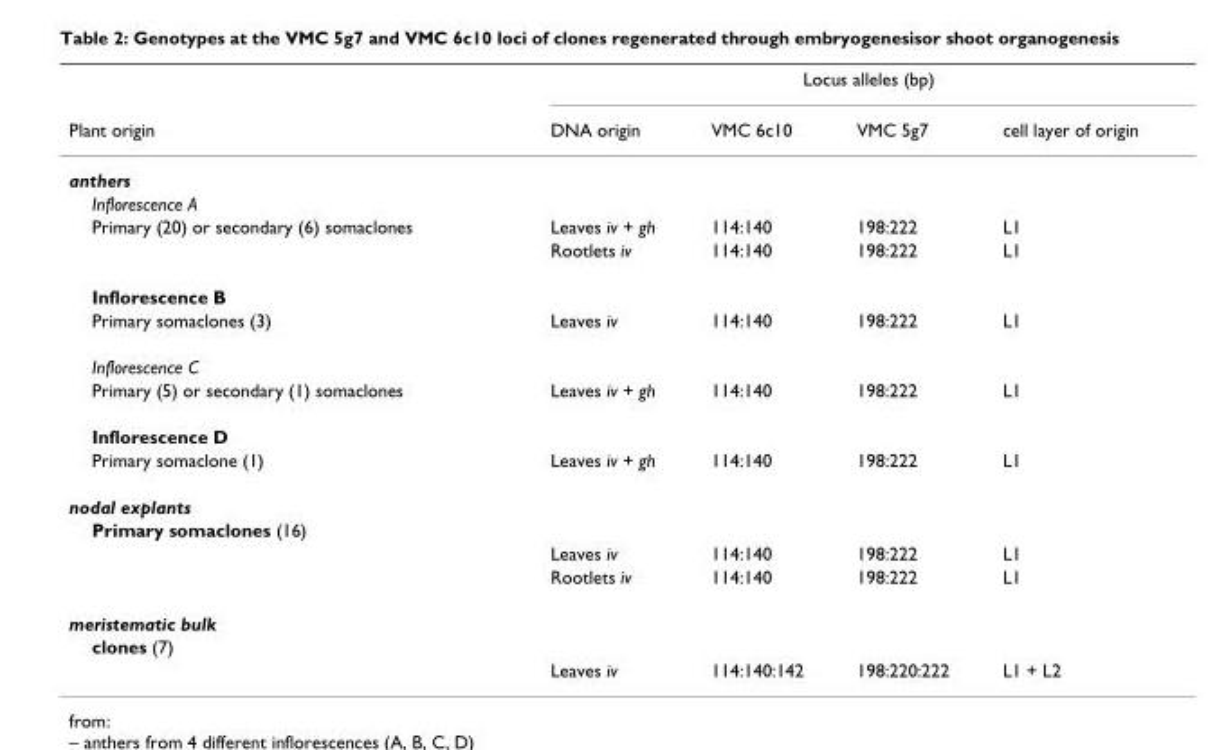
<table><thead><tr><td rowspan="2">Plant origin</td><td colspan="4">Locus alleles (bp)</td></tr><tr><td>DNA origin</td><td>VMC 6c10</td><td>VMC 5g7</td><td>cell layer of origin</td></tr></thead><tbody><tr><td colspan="5">anthers</td></tr><tr><td colspan="5">Inflorescence A</td></tr><tr><td rowspan="2">Primary (20) or secondary (6) somaclones</td><td>Leaves iv + gh</td><td>114:140</td><td>198:222</td><td>L1</td></tr><tr><td>Rootlets iv</td><td>114:140</td><td>198:222</td><td>L1</td></tr><tr><td colspan="5">Inflorescence B</td></tr><tr><td>Primary somaclones (3)</td><td>Leaves iv</td><td>114:140</td><td>198:222</td><td>L1</td></tr><tr><td colspan="5">Inflorescence C</td></tr><tr><td>Primary (5) or secondary (1) somaclones</td><td>Leaves iv + gh</td><td>114:140</td><td>198:222</td><td>L1</td></tr><tr><td colspan="5">Inflorescence D</td></tr><tr><td>Primary somaclone (1)</td><td>Leaves iv + gh</td><td>114:140</td><td>198:222</td><td>L1</td></tr><tr><td colspan="5">nodal explants</td></tr><tr><td colspan="5">Primary somaclones (16)</td></tr><tr><td></td><td>Leaves iv</td><td>114:140</td><td>198:222</td><td>L1</td></tr><tr><td></td><td>Rootlets iv</td><td>114:140</td><td>198:222</td><td>L1</td></tr><tr><td colspan="5">meristematic bulk</td></tr><tr><td colspan="5">clones (7)</td></tr><tr><td></td><td>Leaves iv</td><td>114:140:142</td><td>198:220:222</td><td>L1 + L2</td></tr></tbody></table>